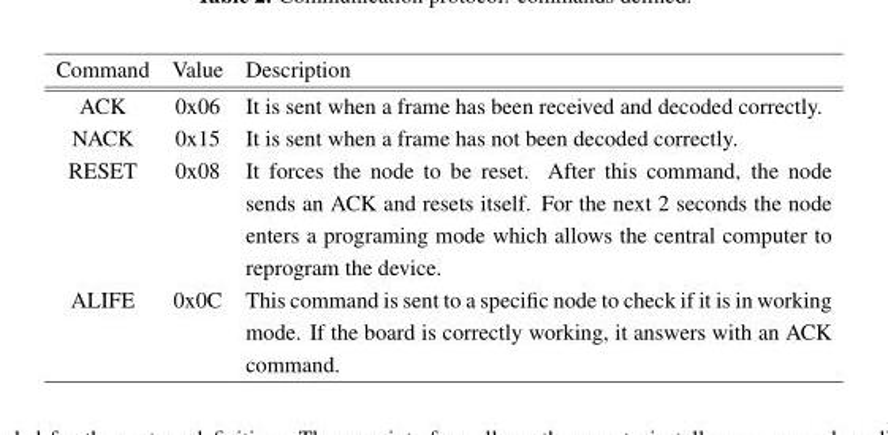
<table><thead><tr><td>Command</td><td>Value</td><td>Description</td></tr></thead><tbody><tr><td>ACK</td><td>0x06</td><td>It is sent when a frame has been received and decoded correctly.</td></tr><tr><td>NACK</td><td>0x15</td><td>It is sent when a frame has not been decoded correctly.</td></tr><tr><td>RESET</td><td>0x08</td><td>It forces the node to be reset. After this command, the node sends an ACK and resets itself. For the next 2 seconds the node enters a programing mode which allows the central computer to reprogram the device.</td></tr><tr><td>ALIFE</td><td>0x0C</td><td>This command is sent to a specific node to check if it is in working mode. If the board is correctly working, it answers with an ACK command.</td></tr></tbody></table>